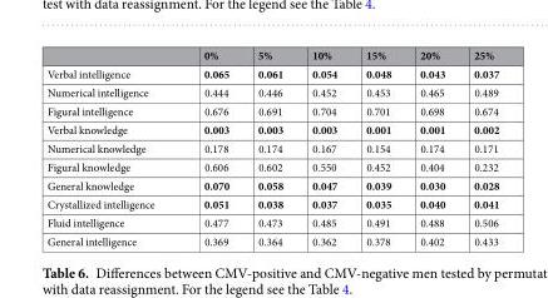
<table><thead><tr><td></td><td>0%</td><td>5%</td><td>10%</td><td>15%</td><td>20%</td><td>25%</td></tr></thead><tbody><tr><td>Verbal intelligence</td><td>0.065</td><td>0.061</td><td>0.054</td><td>0.048</td><td>0.043</td><td>0.037</td></tr><tr><td>Numerical intelligence</td><td>0.444</td><td>0.446</td><td>0.452</td><td>0.453</td><td>0.465</td><td>0.489</td></tr><tr><td>Figural intelligence</td><td>0.676</td><td>0.691</td><td>0.704</td><td>0.701</td><td>0.698</td><td>0.674</td></tr><tr><td>Verbal knowledge</td><td>0.003</td><td>0.003</td><td>0.003</td><td>0.001</td><td>0.001</td><td>0.002</td></tr><tr><td>Numerical knowledge</td><td>0.178</td><td>0.174</td><td>0.167</td><td>0.154</td><td>0.174</td><td>0.171</td></tr><tr><td>Figural knowledge</td><td>0.606</td><td>0.602</td><td>0.550</td><td>0.452</td><td>0.404</td><td>0.232</td></tr><tr><td>General knowledge</td><td>0.070</td><td>0.058</td><td>0.047</td><td>0.039</td><td>0.030</td><td>0.028</td></tr><tr><td>Crystallized intelligence</td><td>0.051</td><td>0.038</td><td>0.037</td><td>0.035</td><td>0.040</td><td>0.041</td></tr><tr><td>Fluid intelligence</td><td>0.477</td><td>0.473</td><td>0.485</td><td>0.491</td><td>0.488</td><td>0.506</td></tr><tr><td>General intelligence</td><td>0.369</td><td>0.364</td><td>0.362</td><td>0.378</td><td>0.402</td><td>0.433</td></tr></tbody></table>